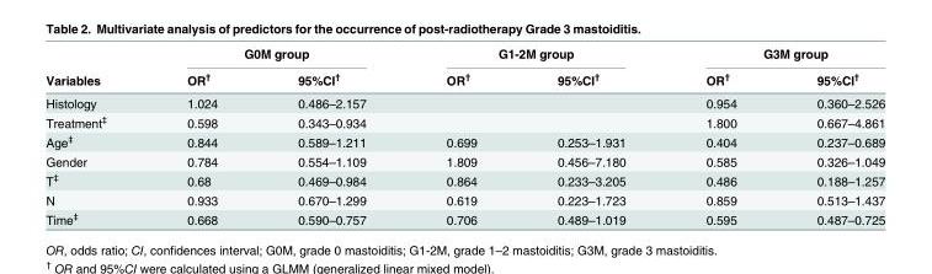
<table><thead><tr><td rowspan="2">Variables</td><td colspan="2">G0M group</td><td colspan="2">G1-2M group</td><td colspan="2">G3M group</td></tr><tr><td>OR<sup>†</sup></td><td>95%CI<sup>†</sup></td><td>OR<sup>†</sup></td><td>95%CI<sup>†</sup></td><td>OR<sup>†</sup></td><td>95%CI<sup>†</sup></td></tr></thead><tbody><tr><td>Histology</td><td>1.024</td><td>0.486–2.157</td><td></td><td></td><td>0.954</td><td>0.360–2.526</td></tr><tr><td>Treatment<sup>‡</sup></td><td>0.598</td><td>0.343–0.934</td><td></td><td></td><td>1.800</td><td>0.667–4.861</td></tr><tr><td>Age<sup>‡</sup></td><td>0.844</td><td>0.589–1.211</td><td>0.699</td><td>0.253–1.931</td><td>0.404</td><td>0.237–0.689</td></tr><tr><td>Gender</td><td>0.784</td><td>0.554–1.109</td><td>1.809</td><td>0.456–7.180</td><td>0.585</td><td>0.326–1.049</td></tr><tr><td>T<sup>‡</sup></td><td>0.68</td><td>0.469–0.984</td><td>0.864</td><td>0.233–3.205</td><td>0.486</td><td>0.188–1.257</td></tr><tr><td>N</td><td>0.933</td><td>0.670–1.299</td><td>0.619</td><td>0.223–1.723</td><td>0.859</td><td>0.513–1.437</td></tr><tr><td>Time<sup>‡</sup></td><td>0.668</td><td>0.590–0.757</td><td>0.706</td><td>0.489–1.019</td><td>0.595</td><td>0.487–0.725</td></tr></tbody></table>